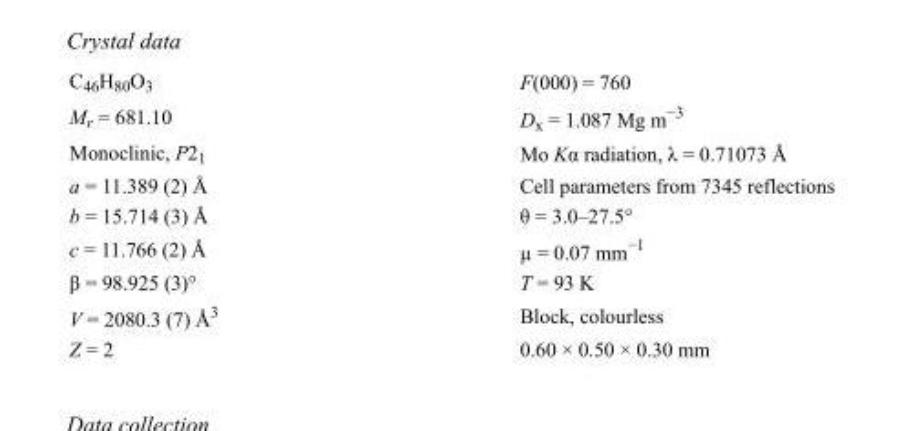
<table><tbody><tr><td>C<sub>46</sub>H<sub>80</sub>O<sub>3</sub></td><td>F(000) = 760</td></tr><tr><td>M<sub>r</sub> = 681.10</td><td>D<sub>x</sub> = 1.087 Mg m<sup>−3</sup></td></tr><tr><td>Monoclinic, P2<sub>1</sub></td><td>Mo Kα radiation, λ = 0.71073 Å</td></tr><tr><td>a = 11.389 (2) Å</td><td>Cell parameters from 7345 reflections</td></tr><tr><td>b = 15.714 (3) Å</td><td>θ = 3.0–27.5°</td></tr><tr><td>c = 11.766 (2) Å</td><td>µ = 0.07 mm<sup>−1</sup></td></tr><tr><td>β = 98.925 (3)°</td><td>T = 93 K</td></tr><tr><td>V = 2080.3 (7) Å<sup>3</sup></td><td>Block, colourless</td></tr><tr><td>Z = 2</td><td>0.60 × 0.50 × 0.30 mm</td></tr></tbody></table>